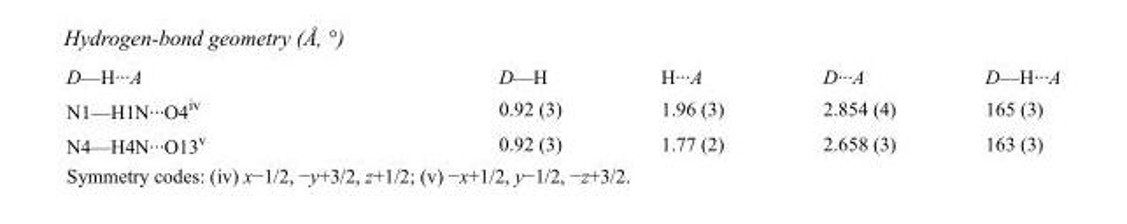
<table><tbody><tr><td>D—H···A</td><td>D—H</td><td>H···A</td><td>D···A</td><td>D—H···A</td></tr><tr><td>N1—H1N···O4<sup>iv</sup></td><td>0.92 (3)</td><td>1.96 (3)</td><td>2.854 (4)</td><td>165 (3)</td></tr><tr><td>N4—H4N···O13<sup>v</sup></td><td>0.92 (3)</td><td>1.77 (2)</td><td>2.658 (3)</td><td>163 (3)</td></tr></tbody></table>